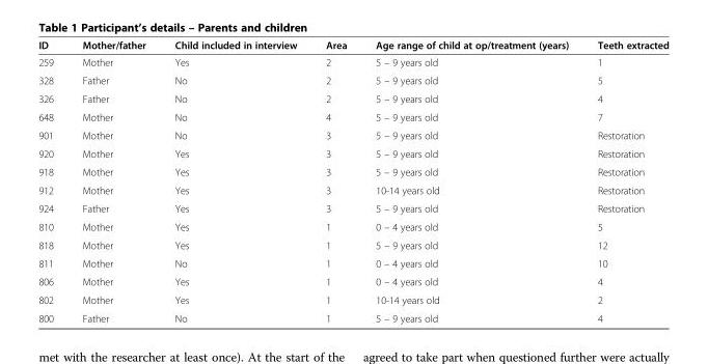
<table><thead><tr><td>ID</td><td>Mother/father</td><td>Child included in interview</td><td>Area</td><td>Age range of child at op/treatment (years)</td><td>Teeth extracted</td></tr></thead><tbody><tr><td>259</td><td>Mother</td><td>Yes</td><td>2</td><td>5 – 9 years old</td><td>1</td></tr><tr><td>328</td><td>Father</td><td>No</td><td>2</td><td>5 – 9 years old</td><td>5</td></tr><tr><td>326</td><td>Father</td><td>No</td><td>2</td><td>5 – 9 years old</td><td>4</td></tr><tr><td>648</td><td>Mother</td><td>No</td><td>4</td><td>5 – 9 years old</td><td>7</td></tr><tr><td>901</td><td>Mother</td><td>No</td><td>3</td><td>5 – 9 years old</td><td>Restoration</td></tr><tr><td>920</td><td>Mother</td><td>Yes</td><td>3</td><td>5 – 9 years old</td><td>Restoration</td></tr><tr><td>918</td><td>Mother</td><td>Yes</td><td>3</td><td>5 – 9 years old</td><td>Restoration</td></tr><tr><td>912</td><td>Mother</td><td>Yes</td><td>3</td><td>10-14 years old</td><td>Restoration</td></tr><tr><td>924</td><td>Father</td><td>Yes</td><td>3</td><td>5 – 9 years old</td><td>Restoration</td></tr><tr><td>810</td><td>Mother</td><td>Yes</td><td>1</td><td>0 – 4 years old</td><td>5</td></tr><tr><td>818</td><td>Mother</td><td>Yes</td><td>1</td><td>5 – 9 years old</td><td>12</td></tr><tr><td>811</td><td>Mother</td><td>No</td><td>1</td><td>0 – 4 years old</td><td>10</td></tr><tr><td>806</td><td>Mother</td><td>Yes</td><td>1</td><td>0 – 4 years old</td><td>4</td></tr><tr><td>802</td><td>Mother</td><td>Yes</td><td>1</td><td>10-14 years old</td><td>2</td></tr><tr><td>800</td><td>Father</td><td>No</td><td>1</td><td>5 – 9 years old</td><td>4</td></tr></tbody></table>